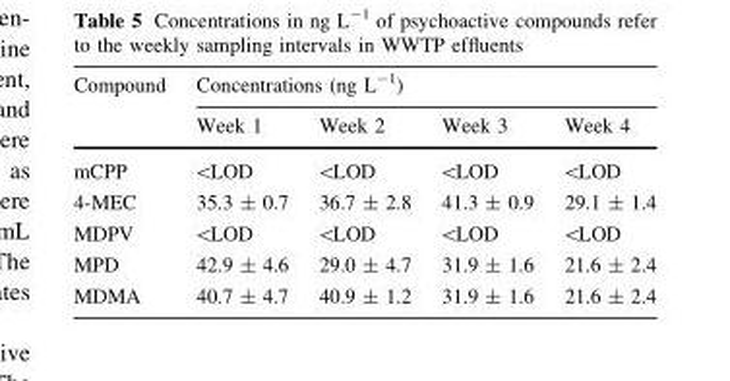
<table><thead><tr><td rowspan="2">Compound</td><td colspan="4">Concentrations (ng L<sup>-1</sup>)</td></tr><tr><td>Week 1</td><td>Week 2</td><td>Week 3</td><td>Week 4</td></tr></thead><tbody><tr><td>mCPP</td><td>&lt;LOD</td><td>&lt;LOD</td><td>&lt;LOD</td><td>&lt;LOD</td></tr><tr><td>4-MEC</td><td>35.3 ± 0.7</td><td>36.7 ± 2.8</td><td>41.3 ± 0.9</td><td>29.1 ± 1.4</td></tr><tr><td>MDPV</td><td>&lt;LOD</td><td>&lt;LOD</td><td>&lt;LOD</td><td>&lt;LOD</td></tr><tr><td>MPD</td><td>42.9 ± 4.6</td><td>29.0 ± 4.7</td><td>31.9 ± 1.6</td><td>21.6 ± 2.4</td></tr><tr><td>MDMA</td><td>40.7 ± 4.7</td><td>40.9 ± 1.2</td><td>31.9 ± 1.6</td><td>21.6 ± 2.4</td></tr></tbody></table>